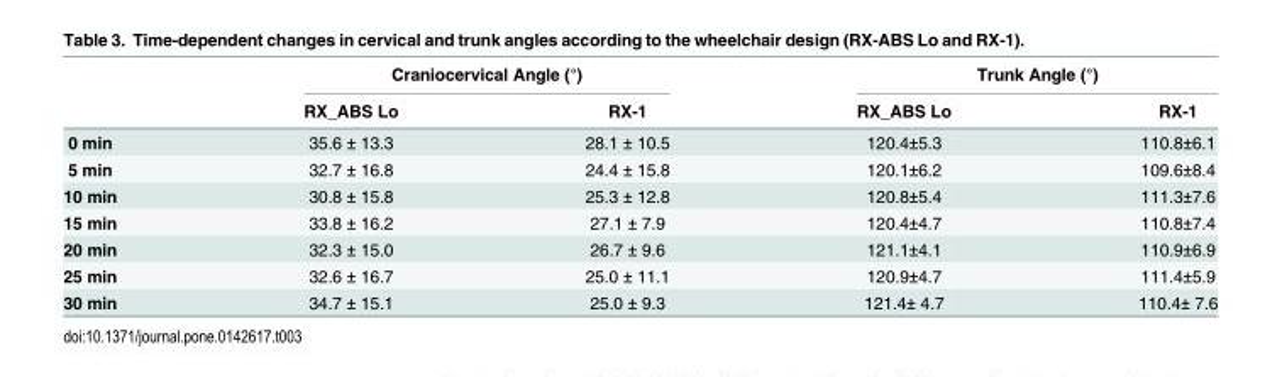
<table><thead><tr><td rowspan="2"></td><td colspan="2">Craniocervical Angle (°)</td><td colspan="2">Trunk Angle (°)</td></tr><tr><td>RX_ABS Lo</td><td>RX-1</td><td>RX_ABS Lo</td><td>RX-1</td></tr></thead><tbody><tr><td>0 min</td><td>35.6 ± 13.3</td><td>28.1 ± 10.5</td><td>120.4±5.3</td><td>110.8±6.1</td></tr><tr><td>5 min</td><td>32.7 ± 16.8</td><td>24.4 ± 15.8</td><td>120.1±6.2</td><td>109.6±8.4</td></tr><tr><td>10 min</td><td>30.8 ± 15.8</td><td>25.3 ± 12.8</td><td>120.8±5.4</td><td>111.3±7.6</td></tr><tr><td>15 min</td><td>33.8 ± 16.2</td><td>27.1 ± 7.9</td><td>120.4±4.7</td><td>110.8±7.4</td></tr><tr><td>20 min</td><td>32.3 ± 15.0</td><td>26.7 ± 9.6</td><td>121.1±4.1</td><td>110.9±6.9</td></tr><tr><td>25 min</td><td>32.6 ± 16.7</td><td>25.0 ± 11.1</td><td>120.9±4.7</td><td>111.4±5.9</td></tr><tr><td>30 min</td><td>34.7 ± 15.1</td><td>25.0 ± 9.3</td><td>121.4± 4.7</td><td>110.4± 7.6</td></tr></tbody></table>